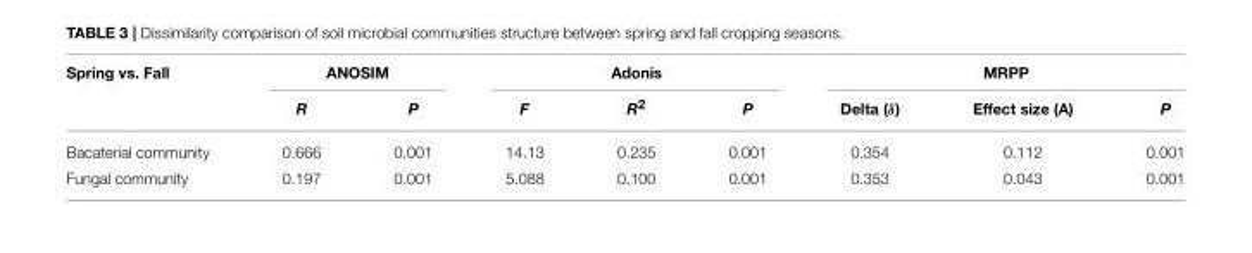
<table><thead><tr><td rowspan="2">Spring vs. Fall</td><td colspan="2">ANOSIM</td><td colspan="3">Adonis</td><td colspan="3">MRPP</td></tr><tr><td>R</td><td>P</td><td>F</td><td>R<sup>2</sup></td><td>P</td><td>Delta (δ)</td><td>Effect size (A)</td><td>P</td></tr></thead><tbody><tr><td>Bacaterial community</td><td>0.666</td><td>0.001</td><td>14.13</td><td>0.235</td><td>0.001</td><td>0.354</td><td>0.112</td><td>0.001</td></tr><tr><td>Fungal community</td><td>0.197</td><td>0.001</td><td>5.088</td><td>0.100</td><td>0.001</td><td>0.353</td><td>0.043</td><td>0.001</td></tr></tbody></table>